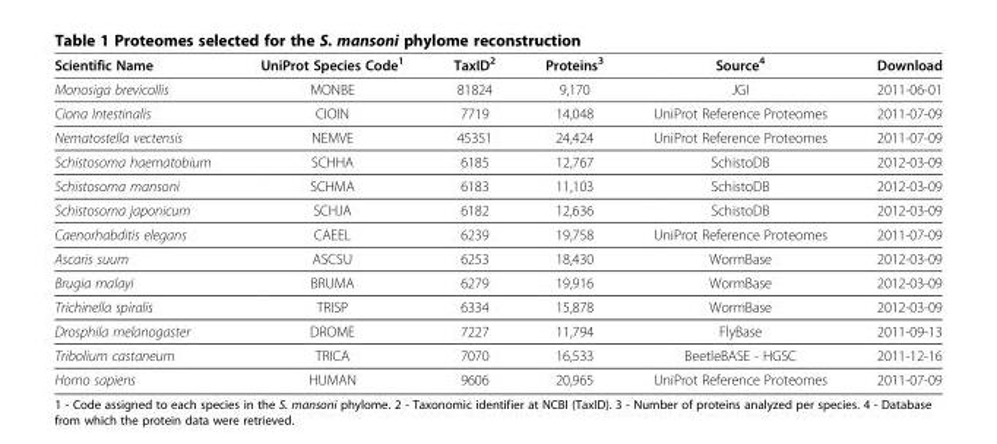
<table><thead><tr><td>Scientific Name</td><td>UniProt Species Code<sup>1</sup></td><td>TaxID<sup>2</sup></td><td>Proteins<sup>3</sup></td><td>Source<sup>4</sup></td><td>Download</td></tr></thead><tbody><tr><td>Monosiga brevicollis</td><td>MONBE</td><td>81824</td><td>9,170</td><td>JGI</td><td>2011-06-01</td></tr><tr><td>Ciona Intestinalis</td><td>CIOIN</td><td>7719</td><td>14,048</td><td>UniProt Reference Proteomes</td><td>2011-07-09</td></tr><tr><td>Nematostella vectensis</td><td>NEMVE</td><td>45351</td><td>24,424</td><td>UniProt Reference Proteomes</td><td>2011-07-09</td></tr><tr><td>Schistosoma haematobium</td><td>SCHHA</td><td>6185</td><td>12,767</td><td>SchistoDB</td><td>2012-03-09</td></tr><tr><td>Schistosoma mansoni</td><td>SCHMA</td><td>6183</td><td>11,103</td><td>SchistoDB</td><td>2012-03-09</td></tr><tr><td>Schistosoma japonicum</td><td>SCHJA</td><td>6182</td><td>12,636</td><td>SchistoDB</td><td>2012-03-09</td></tr><tr><td>Caenorhabditis elegans</td><td>CAEEL</td><td>6239</td><td>19,758</td><td>UniProt Reference Proteomes</td><td>2011-07-09</td></tr><tr><td>Ascaris suum</td><td>ASCSU</td><td>6253</td><td>18,430</td><td>WormBase</td><td>2012-03-09</td></tr><tr><td>Brugia malayi</td><td>BRUMA</td><td>6279</td><td>19,916</td><td>WormBase</td><td>2012-03-09</td></tr><tr><td>Trichinella spiralis</td><td>TRISP</td><td>6334</td><td>15,878</td><td>WormBase</td><td>2012-03-09</td></tr><tr><td>Drosphila melanogaster</td><td>DROME</td><td>7227</td><td>11,794</td><td>FlyBase</td><td>2011-09-13</td></tr><tr><td>Tribolium castaneum</td><td>TRICA</td><td>7070</td><td>16,533</td><td>BeetleBASE - HGSC</td><td>2011-12-16</td></tr><tr><td>Homo sapiens</td><td>HUMAN</td><td>9606</td><td>20,965</td><td>UniProt Reference Proteomes</td><td>2011-07-09</td></tr></tbody></table>